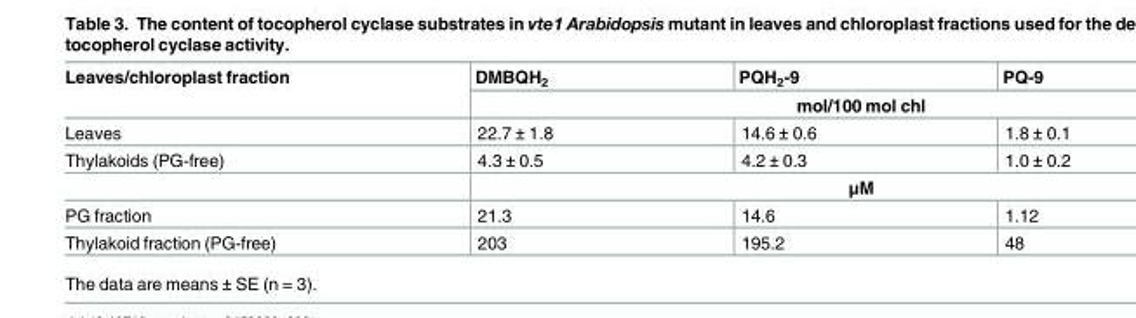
<table><thead><tr><td rowspan="2">Leaves/chloroplast fraction</td><td>DMBQH<sub>2</sub></td><td>PQH<sub>2</sub>-9</td><td>PQ-9</td></tr><tr><td colspan="3">mol/100 mol chl</td></tr></thead><tbody><tr><td>Leaves</td><td>22.7 ± 1.8</td><td>14.6 ± 0.6</td><td>1.8 ± 0.1</td></tr><tr><td rowspan="2">Thylakoids (PG-free)</td><td>4.3 ± 0.5</td><td>4.2 ± 0.3</td><td>1.0 ± 0.2</td></tr><tr><td colspan="3">μM</td></tr><tr><td>PG fraction</td><td>21.3</td><td>14.6</td><td>1.12</td></tr><tr><td>Thylakoid fraction (PG-free)</td><td>203</td><td>195.2</td><td>48</td></tr></tbody></table>